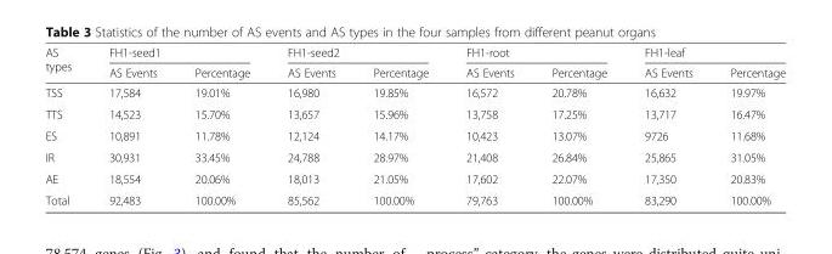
<table><thead><tr><td rowspan="2">AS types</td><td colspan="2">FH1-seed1</td><td colspan="2">FH1-seed2</td><td colspan="2">FH1-root</td><td colspan="2">FH1-leaf</td></tr><tr><td>AS Events</td><td>Percentage</td><td>AS Events</td><td>Percentage</td><td>AS Events</td><td>Percentage</td><td>AS Events</td><td>Percentage</td></tr></thead><tbody><tr><td>TSS</td><td>17,584</td><td>19.01%</td><td>16,980</td><td>19.85%</td><td>16,572</td><td>20.78%</td><td>16,632</td><td>19.97%</td></tr><tr><td>TTS</td><td>14,523</td><td>15.70%</td><td>13,657</td><td>15.96%</td><td>13,758</td><td>17.25%</td><td>13,717</td><td>16.47%</td></tr><tr><td>ES</td><td>10,891</td><td>11.78%</td><td>12,124</td><td>14.17%</td><td>10,423</td><td>13.07%</td><td>9726</td><td>11.68%</td></tr><tr><td>IR</td><td>30,931</td><td>33.45%</td><td>24,788</td><td>28.97%</td><td>21,408</td><td>26.84%</td><td>25,865</td><td>31.05%</td></tr><tr><td>AE</td><td>18,554</td><td>20.06%</td><td>18,013</td><td>21.05%</td><td>17,602</td><td>22.07%</td><td>17,350</td><td>20.83%</td></tr><tr><td>Total</td><td>92,483</td><td>100.00%</td><td>85,562</td><td>100.00%</td><td>79,763</td><td>100.00%</td><td>83,290</td><td>100.00%</td></tr></tbody></table>